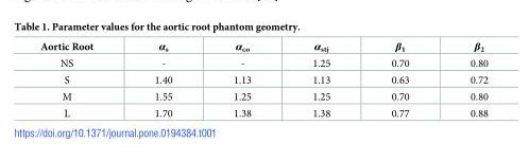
<table><thead><tr><td>Aortic Root</td><td>α<sub>s</sub></td><td>α<sub>co</sub></td><td>α<sub>stj</sub></td><td>β<sub>1</sub></td><td>β<sub>2</sub></td></tr></thead><tbody><tr><td>NS</td><td>-</td><td>-</td><td>1.25</td><td>0.70</td><td>0.80</td></tr><tr><td>S</td><td>1.40</td><td>1.13</td><td>1.13</td><td>0.63</td><td>0.72</td></tr><tr><td>M</td><td>1.55</td><td>1.25</td><td>1.25</td><td>0.70</td><td>0.80</td></tr><tr><td>L</td><td>1.70</td><td>1.38</td><td>1.38</td><td>0.77</td><td>0.88</td></tr></tbody></table>